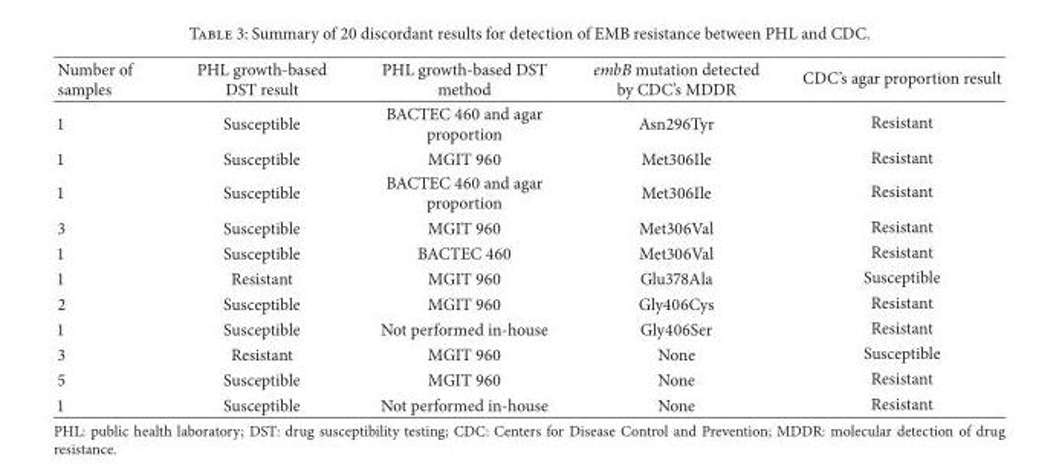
<table><thead><tr><td>Number of samples</td><td>PHL growth-based DST result</td><td>PHL growth-based DST method</td><td>embB mutation detected by CDC’s MDDR</td><td>CDC’s agar proportion result</td></tr></thead><tbody><tr><td>1</td><td>Susceptible</td><td>BACTEC 460 and agar proportion</td><td>Asn296Tyr</td><td>Resistant</td></tr><tr><td>1</td><td>Susceptible</td><td>MGIT 960</td><td>Met306Ile</td><td>Resistant</td></tr><tr><td>1</td><td>Susceptible</td><td>BACTEC 460 and agar proportion</td><td>Met306Ile</td><td>Resistant</td></tr><tr><td>3</td><td>Susceptible</td><td>MGIT 960</td><td>Met306Val</td><td>Resistant</td></tr><tr><td>1</td><td>Susceptible</td><td>BACTEC 460</td><td>Met306Val</td><td>Resistant</td></tr><tr><td>1</td><td>Resistant</td><td>MGIT 960</td><td>Glu378Ala</td><td>Susceptible</td></tr><tr><td>2</td><td>Susceptible</td><td>MGIT 960</td><td>Gly406Cys</td><td>Resistant</td></tr><tr><td>1</td><td>Susceptible</td><td>Not performed in-house</td><td>Gly406Ser</td><td>Resistant</td></tr><tr><td>3</td><td>Resistant</td><td>MGIT 960</td><td>None</td><td>Susceptible</td></tr><tr><td>5</td><td>Susceptible</td><td>MGIT 960</td><td>None</td><td>Resistant</td></tr><tr><td>1</td><td>Susceptible</td><td>Not performed in-house</td><td>None</td><td>Resistant</td></tr></tbody></table>